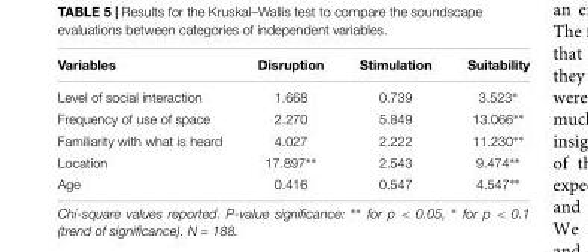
<table><thead><tr><td>Variables</td><td>Disruption</td><td>Stimulation</td><td>Suitability</td></tr></thead><tbody><tr><td>Level of social interaction</td><td>1.668</td><td>0.739</td><td>3.523∗</td></tr><tr><td>Frequency of use of space</td><td>2.270</td><td>5.849</td><td>13.066∗∗</td></tr><tr><td>Familiarity with what is heard</td><td>4.027</td><td>2.222</td><td>11.230∗∗</td></tr><tr><td>Location</td><td>17.897∗∗</td><td>2.543</td><td>9.474∗∗</td></tr><tr><td>Age</td><td>0.416</td><td>0.547</td><td>4.547∗∗</td></tr></tbody></table>